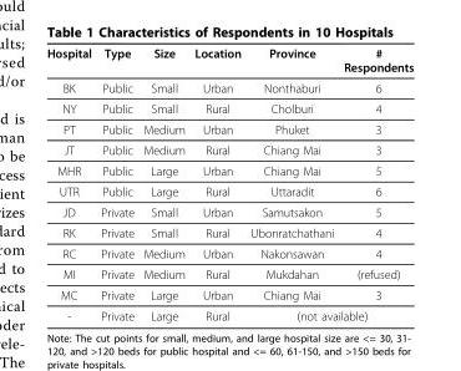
<table><thead><tr><td>Hospital</td><td>Type</td><td>Size</td><td>Location</td><td>Province</td><td># Respondents</td></tr></thead><tbody><tr><td>BK</td><td>Public</td><td>Small</td><td>Urban</td><td>Nonthaburi</td><td>6</td></tr><tr><td>NY</td><td>Public</td><td>Small</td><td>Rural</td><td>Cholburi</td><td>4</td></tr><tr><td>PT</td><td>Public</td><td>Medium</td><td>Urban</td><td>Phuket</td><td>3</td></tr><tr><td>JT</td><td>Public</td><td>Medium</td><td>Rural</td><td>Chiang Mai</td><td>3</td></tr><tr><td>MHR</td><td>Public</td><td>Large</td><td>Urban</td><td>Chiang Mai</td><td>5</td></tr><tr><td>UTR</td><td>Public</td><td>Large</td><td>Rural</td><td>Uttaradit</td><td>6</td></tr><tr><td>JD</td><td>Private</td><td>Small</td><td>Urban</td><td>Samutsakon</td><td>5</td></tr><tr><td>RK</td><td>Private</td><td>Small</td><td>Rural</td><td>Ubonratchathani</td><td>4</td></tr><tr><td>RC</td><td>Private</td><td>Medium</td><td>Urban</td><td>Nakonsawan</td><td>4</td></tr><tr><td>MI</td><td>Private</td><td>Medium</td><td>Rural</td><td>Mukdahan</td><td>(refused)</td></tr><tr><td>MC</td><td>Private</td><td>Large</td><td>Urban</td><td>Chiang Mai</td><td>3</td></tr><tr><td>-</td><td>Private</td><td>Large</td><td>Rural</td><td colspan="2">(not available)</td></tr></tbody></table>